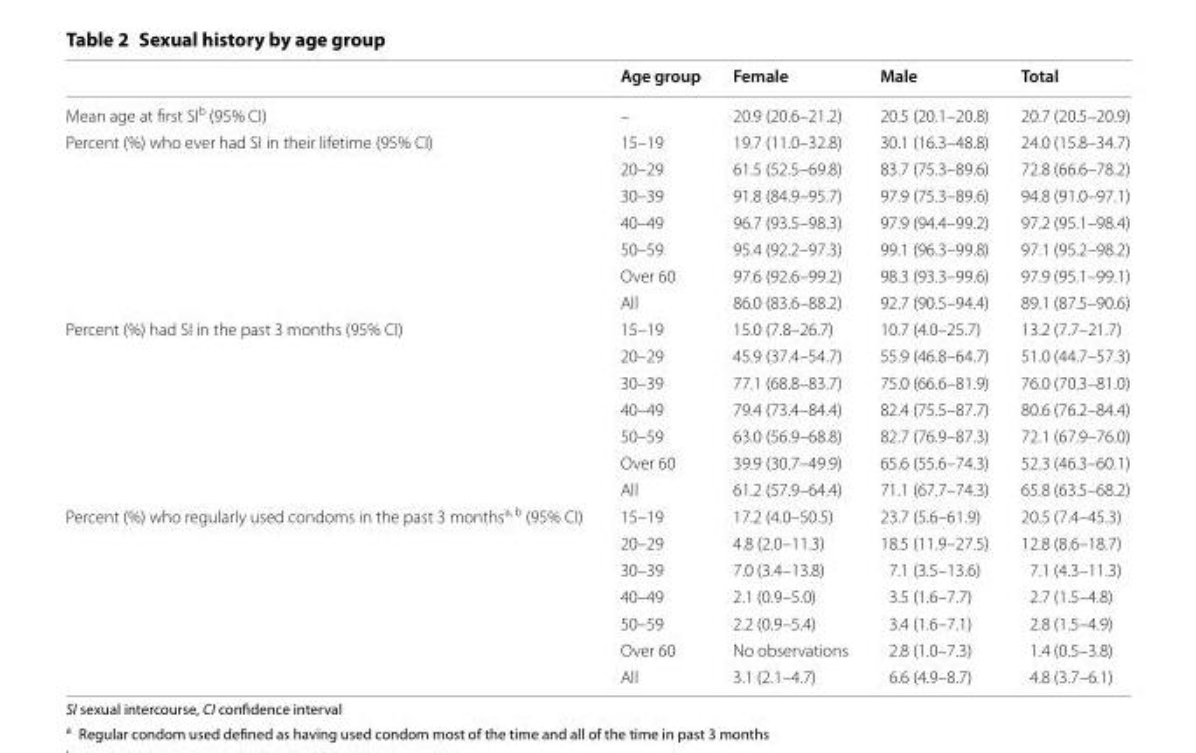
<table><thead><tr><td></td><td>Age group</td><td>Female</td><td>Male</td><td>Total</td></tr></thead><tbody><tr><td>Mean age at first SI<sup>b</sup> (95% CI)</td><td>–</td><td>20.9 (20.6–21.2)</td><td>20.5 (20.1–20.8)</td><td>20.7 (20.5–20.9)</td></tr><tr><td rowspan="7">Percent (%) who ever had SI in their lifetime (95% CI)</td><td>15–19</td><td>19.7 (11.0–32.8)</td><td>30.1 (16.3–48.8)</td><td>24.0 (15.8–34.7)</td></tr><tr><td>20–29</td><td>61.5 (52.5–69.8)</td><td>83.7 (75.3–89.6)</td><td>72.8 (66.6–78.2)</td></tr><tr><td>30–39</td><td>91.8 (84.9–95.7)</td><td>97.9 (75.3–89.6)</td><td>94.8 (91.0–97.1)</td></tr><tr><td>40–49</td><td>96.7 (93.5–98.3)</td><td>97.9 (94.4–99.2)</td><td>97.2 (95.1–98.4)</td></tr><tr><td>50–59</td><td>95.4 (92.2–97.3)</td><td>99.1 (96.3–99.8)</td><td>97.1 (95.2–98.2)</td></tr><tr><td>Over 60</td><td>97.6 (92.6–99.2)</td><td>98.3 (93.3–99.6)</td><td>97.9 (95.1–99.1)</td></tr><tr><td>All</td><td>86.0 (83.6–88.2)</td><td>92.7 (90.5–94.4)</td><td>89.1 (87.5–90.6)</td></tr><tr><td rowspan="7">Percent (%) had SI in the past 3 months (95% CI)</td><td>15–19</td><td>15.0 (7.8–26.7)</td><td>10.7 (4.0–25.7)</td><td>13.2 (7.7–21.7)</td></tr><tr><td>20–29</td><td>45.9 (37.4–54.7)</td><td>55.9 (46.8–64.7)</td><td>51.0 (44.7–57.3)</td></tr><tr><td>30–39</td><td>77.1 (68.8–83.7)</td><td>75.0 (66.6–81.9)</td><td>76.0 (70.3–81.0)</td></tr><tr><td>40–49</td><td>79.4 (73.4–84.4)</td><td>82.4 (75.5–87.7)</td><td>80.6 (76.2–84.4)</td></tr><tr><td>50–59</td><td>63.0 (56.9–68.8)</td><td>82.7 (76.9–87.3)</td><td>72.1 (67.9–76.0)</td></tr><tr><td>Over 60</td><td>39.9 (30.7–49.9)</td><td>65.6 (55.6–74.3)</td><td>52.3 (46.3–60.1)</td></tr><tr><td>All</td><td>61.2 (57.9–64.4)</td><td>71.1 (67.7–74.3)</td><td>65.8 (63.5–68.2)</td></tr><tr><td rowspan="7">Percent (%) who regularly used condoms in the past 3 months<sup>a, b</sup> (95% CI)</td><td>15–19</td><td>17.2 (4.0–50.5)</td><td>23.7 (5.6–61.9)</td><td>20.5 (7.4–45.3)</td></tr><tr><td>20–29</td><td>4.8 (2.0–11.3)</td><td>18.5 (11.9–27.5)</td><td>12.8 (8.6–18.7)</td></tr><tr><td>30–39</td><td>7.0 (3.4–13.8)</td><td>7.1 (3.5–13.6)</td><td>7.1 (4.3–11.3)</td></tr><tr><td>40–49</td><td>2.1 (0.9–5.0)</td><td>3.5 (1.6–7.7)</td><td>2.7 (1.5–4.8)</td></tr><tr><td>50–59</td><td>2.2 (0.9–5.4)</td><td>3.4 (1.6–7.1)</td><td>2.8 (1.5–4.9)</td></tr><tr><td>Over 60</td><td>No observations</td><td>2.8 (1.0–7.3)</td><td>1.4 (0.5–3.8)</td></tr><tr><td>All</td><td>3.1 (2.1–4.7)</td><td>6.6 (4.9–8.7)</td><td>4.8 (3.7–6.1)</td></tr></tbody></table>